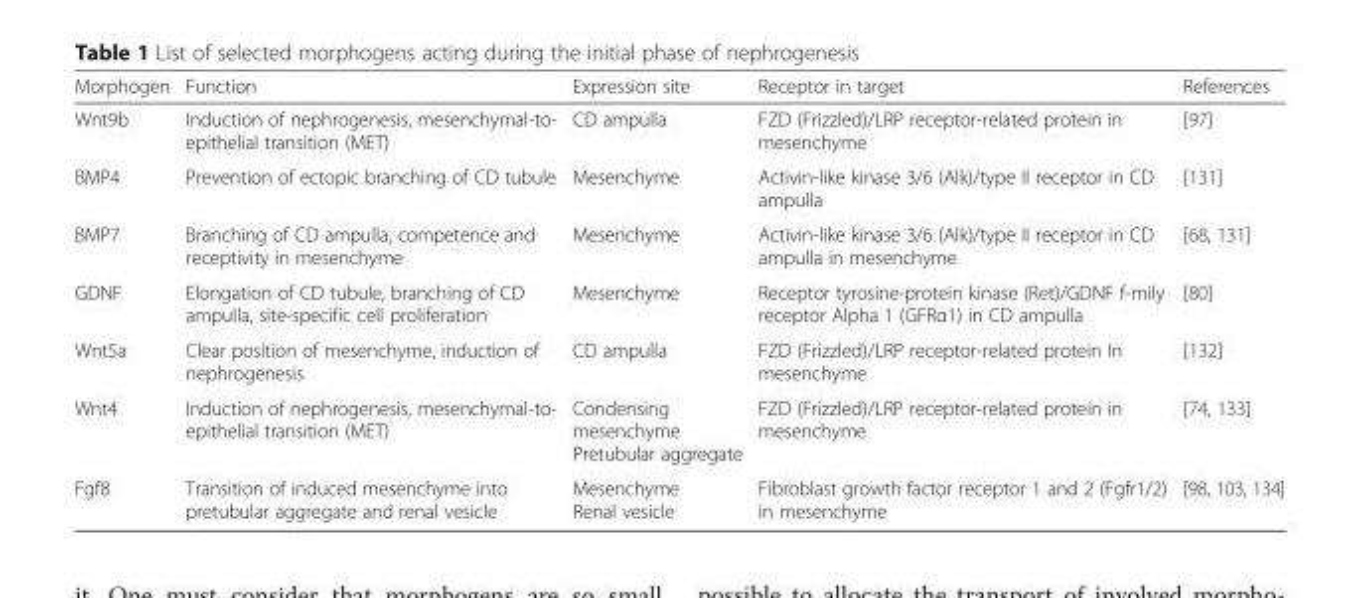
<table><thead><tr><td>Morphogen</td><td>Function</td><td>Expression site</td><td>Receptor in target</td><td>References</td></tr></thead><tbody><tr><td>Wnt9b</td><td>Induction of nephrogenesis, mesenchymal-to- epithelial transition (MET)</td><td>CD ampulla</td><td>FZD (Frizzled)/LRP receptor-related protein in mesenchyme</td><td>[97]</td></tr><tr><td>BMP4</td><td>Prevention of ectopic branching of CD tubule</td><td>Mesenchyme</td><td>Activin-like kinase 3/6 (Alk)/type II receptor in CD ampulla</td><td>[131]</td></tr><tr><td>BMP7</td><td>Branching of CD ampulla, competence and receptivity in mesenchyme</td><td>Mesenchyme</td><td>Activin-like kinase 3/6 (Alk)/type II receptor in CD ampulla in mesenchyme</td><td>[68, 131]</td></tr><tr><td>GDNF</td><td>Elongation of CD tubule, branching of CD ampulla, site-specific cell proliferation</td><td>Mesenchyme</td><td>Receptor tyrosine-protein kinase (Ret)/GDNF f-mily receptor Alpha 1 (GFRα1) in CD ampulla</td><td>[80]</td></tr><tr><td>Wnt5a</td><td>Clear position of mesenchyme, induction of nephrogenesis</td><td>CD ampulla</td><td>FZD (Frizzled)/LRP receptor-related protein In mesenchyme</td><td>[132]</td></tr><tr><td>Wnt4</td><td>Induction of nephrogenesis, mesenchymal-to- epithelial transition (MET)</td><td>Condensing mesenchyme Pretubular aggregate</td><td>FZD (Frizzled)/LRP receptor-related protein in mesenchyme</td><td>[74, 133]</td></tr><tr><td>Fgf8</td><td>Transition of induced mesenchyme into pretubular aggregate and renal vesicle</td><td>Mesenchyme Renal vesicle</td><td>Fibroblast growth factor receptor 1 and 2 (Fgfr1/2) in mesenchyme</td><td>[98, 103, 134]</td></tr></tbody></table>